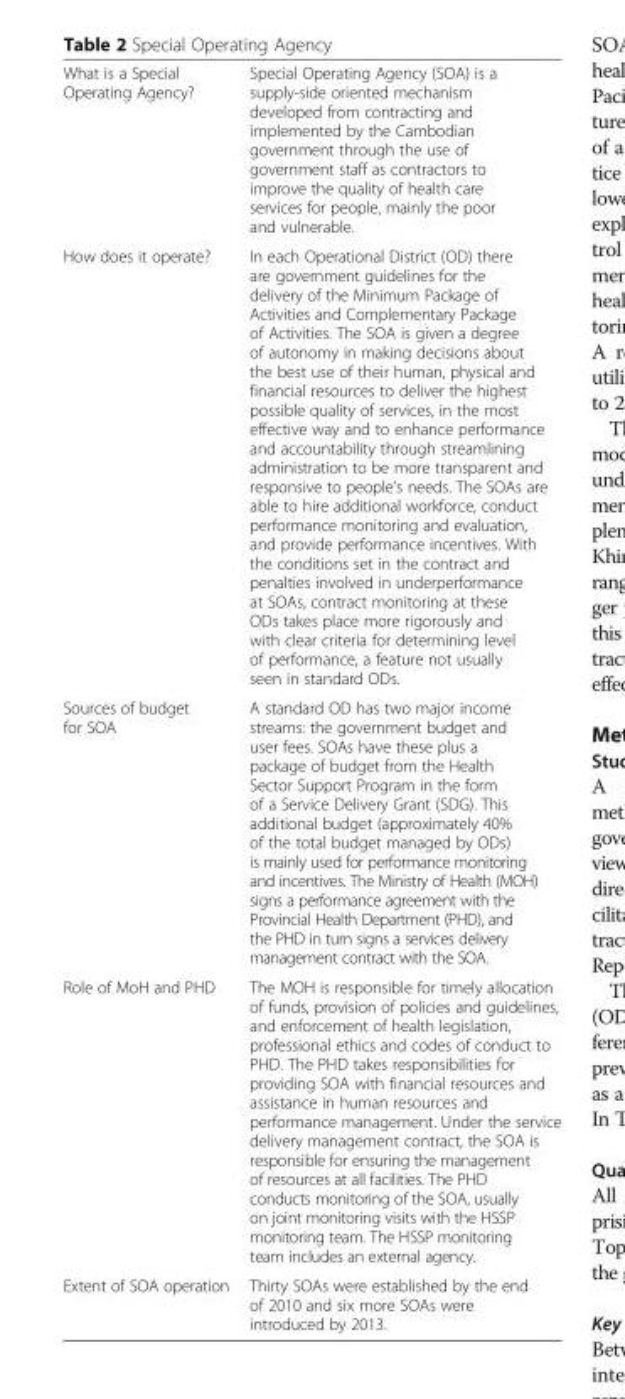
<table><tbody><tr><td>What is a Special Operating Agency?</td><td>Special Operating Agency (SOA) is a supply-side oriented mechanism developed from contracting and implemented by the Cambodian government through the use of government staff as contractors to improve the quality of health care services for people, mainly the poor and vulnerable.</td></tr><tr><td>How does it operate?</td><td>In each Operational District (OD) there are government guidelines for the delivery of the Minimum Package of Activities and Complementary Package of Activities. The SOA is given a degree of autonomy in making decisions about the best use of their human, physical and financial resources to deliver the highest possible quality of services, in the most effective way and to enhance performance and accountability through streamlining administration to be more transparent and responsive to people’s needs. The SOAs are able to hire additional workforce, conduct performance monitoring and evaluation, and provide performance incentives. With the conditions set in the contract and penalties involved in underperformance at SOAs, contract monitoring at these ODs takes place more rigorously and with clear criteria for determining level of performance, a feature not usually seen in standard ODs.</td></tr><tr><td>Sources of budget for SOA</td><td>A standard OD has two major income streams: the government budget and user fees. SOAs have these plus a package of budget from the Health Sector Support Program in the form of a Service Delivery Grant (SDG). This additional budget (approximately 40% of the total budget managed by ODs) is mainly used for performance monitoring and incentives. The Ministry of Health (MOH) signs a performance agreement with the Provincial Health Department (PHD), and the PHD in turn signs a services delivery management contract with the SOA.</td></tr><tr><td>Role of MoH and PHD</td><td>The MOH is responsible for timely allocation of funds, provision of policies and guidelines, and enforcement of health legislation, professional ethics and codes of conduct to PHD. The PHD takes responsibilities for providing SOA with financial resources and assistance in human resources and performance management. Under the service delivery management contract, the SOA is responsible for ensuring the management of resources at all facilities. The PHD conducts monitoring of the SOA, usually on joint monitoring visits with the HSSP monitoring team. The HSSP monitoring team includes an external agency.</td></tr><tr><td>Extent of SOA operation</td><td>Thirty SOAs were established by the end of 2010 and six more SOAs were introduced by 2013.</td></tr></tbody></table>